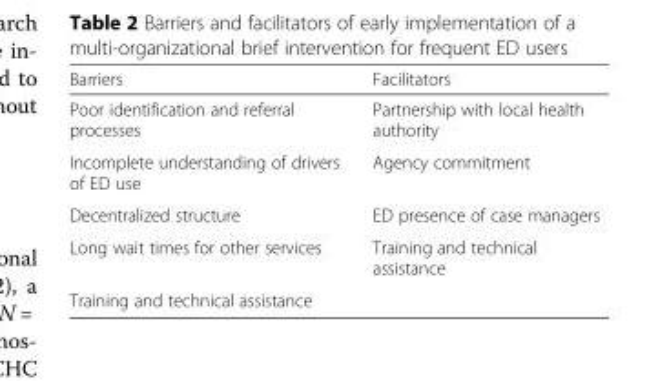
<table><thead><tr><td>Barriers</td><td>Facilitators</td></tr></thead><tbody><tr><td>Poor identification and referral processes</td><td>Partnership with local health authority</td></tr><tr><td>Incomplete understanding of drivers of ED use</td><td>Agency commitment</td></tr><tr><td>Decentralized structure</td><td>ED presence of case managers</td></tr><tr><td>Long wait times for other services</td><td>Training and technical assistance</td></tr><tr><td>Training and technical assistance</td><td></td></tr></tbody></table>